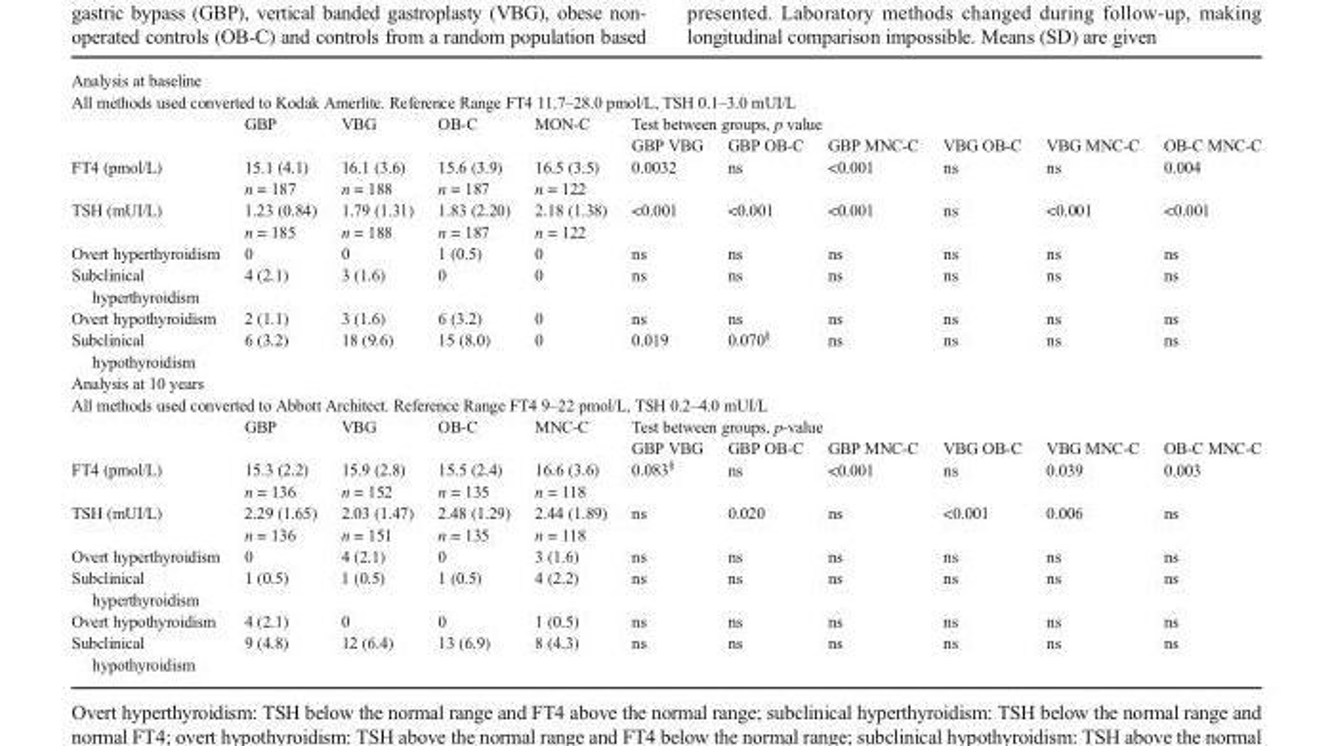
<table><tbody><tr><td colspan="11">Analysis at baseline All methods used converted to Kodak Amerlite. Reference Range FT4 11.7–28.0 pmol/L, TSH 0.1–3.0 mUI/L</td></tr><tr><td rowspan="2"></td><td rowspan="2">GBP</td><td rowspan="2">VBG</td><td rowspan="2">OB-C</td><td rowspan="2">MON-C</td><td colspan="6">Test between groups, p value</td></tr><tr><td>GBP VBG</td><td>GBP OB-C</td><td>GBP MNC-C</td><td>VBG OB-C</td><td>VBG MNC-C</td><td>OB-C MNC-C</td></tr><tr><td>FT4 (pmol/L)</td><td>15.1 (4.1) n = 187</td><td>16.1 (3.6) n = 188</td><td>15.6 (3.9) n = 187</td><td>16.5 (3.5) n = 122</td><td>0.0032</td><td>ns</td><td>&lt;0.001</td><td>ns</td><td>ns</td><td>0.004</td></tr><tr><td>TSH (mUI/L)</td><td>1.23 (0.84) n = 185</td><td>1.79 (1.31) n = 188</td><td>1.83 (2.20) n = 187</td><td>2.18 (1.38) n = 122</td><td>&lt;0.001</td><td>&lt;0.001</td><td>&lt;0.001</td><td>ns</td><td>&lt;0.001</td><td>&lt;0.001</td></tr><tr><td>Overt hyperthyroidism</td><td>0</td><td>0</td><td>1 (0.5)</td><td>0</td><td>ns</td><td>ns</td><td>ns</td><td>ns</td><td>ns</td><td>ns</td></tr><tr><td>Subclinical hyperthyroidism</td><td>4 (2.1)</td><td>3 (1.6)</td><td>0</td><td>0</td><td>ns</td><td>ns</td><td>ns</td><td>ns</td><td>ns</td><td>ns</td></tr><tr><td>Overt hypothyroidism</td><td>2 (1.1)</td><td>3 (1.6)</td><td>6 (3.2)</td><td>0</td><td>ns</td><td>ns</td><td>ns</td><td>ns</td><td>ns</td><td>ns</td></tr><tr><td>Subclinical hypothyroidism</td><td>6 (3.2)</td><td>18 (9.6)</td><td>15 (8.0)</td><td>0</td><td>0.019</td><td>0.070<sup>§</sup></td><td>ns</td><td>ns</td><td>ns</td><td>ns</td></tr><tr><td colspan="11">Analysis at 10 years All methods used converted to Abbott Architect. Reference Range FT4 9–22 pmol/L, TSH 0.2–4.0 mUI/L</td></tr><tr><td rowspan="2"></td><td rowspan="2">GBP</td><td rowspan="2">VBG</td><td rowspan="2">OB-C</td><td rowspan="2">MNC-C</td><td colspan="6">Test between groups, p-value</td></tr><tr><td>GBP VBG</td><td>GBP OB-C</td><td>GBP MNC-C</td><td>VBG OB-C</td><td>VBG MNC-C</td><td>OB-C MNC-C</td></tr><tr><td>FT4 (pmol/L)</td><td>15.3 (2.2) n = 136</td><td>15.9 (2.8) n = 152</td><td>15.5 (2.4) n = 135</td><td>16.6 (3.6) n = 118</td><td>0.083<sup>§</sup></td><td>ns</td><td>&lt;0.001</td><td>ns</td><td>0.039</td><td>0.003</td></tr><tr><td>TSH (mUI/L)</td><td>2.29 (1.65) n = 136</td><td>2.03 (1.47) n = 151</td><td>2.48 (1.29) n = 135</td><td>2.44 (1.89) n = 118</td><td>ns</td><td>0.020</td><td>ns</td><td>&lt;0.001</td><td>0.006</td><td>ns</td></tr><tr><td>Overt hyperthyroidism</td><td>0</td><td>4 (2.1)</td><td>0</td><td>3 (1.6)</td><td>ns</td><td>ns</td><td>ns</td><td>ns</td><td>ns</td><td>ns</td></tr><tr><td>Subclinical hyperthyroidism</td><td>1 (0.5)</td><td>1 (0.5)</td><td>1 (0.5)</td><td>4 (2.2)</td><td>ns</td><td>ns</td><td>ns</td><td>ns</td><td>ns</td><td>ns</td></tr><tr><td>Overt hypothyroidism</td><td>4 (2.1)</td><td>0</td><td>0</td><td>1 (0.5)</td><td>ns</td><td>ns</td><td>ns</td><td>ns</td><td>ns</td><td>ns</td></tr><tr><td>Subclinical hypothyroidism</td><td>9 (4.8)</td><td>12 (6.4)</td><td>13 (6.9)</td><td>8 (4.3)</td><td>ns</td><td>ns</td><td>ns</td><td>ns</td><td>ns</td><td>ns</td></tr></tbody></table>